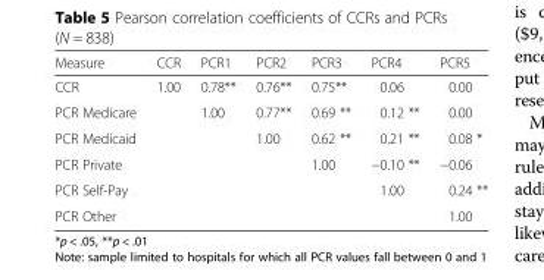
<table><thead><tr><td>Measure</td><td>CCR</td><td>PCR1</td><td>PCR2</td><td>PCR3</td><td>PCR4</td><td>PCR5</td></tr></thead><tbody><tr><td>CCR</td><td>1.00</td><td>0.78**</td><td>0.76**</td><td>0.75**</td><td>0.06</td><td>0.00</td></tr><tr><td>PCR Medicare</td><td></td><td>1.00</td><td>0.77**</td><td>0.69 **</td><td>0.12 **</td><td>0.00</td></tr><tr><td>PCR Medicaid</td><td></td><td></td><td>1.00</td><td>0.62 **</td><td>0.21 **</td><td>0.08 *</td></tr><tr><td>PCR Private</td><td></td><td></td><td></td><td>1.00</td><td>−0.10 **</td><td>−0.06</td></tr><tr><td>PCR Self-Pay</td><td></td><td></td><td></td><td></td><td>1.00</td><td>0.24 **</td></tr><tr><td>PCR Other</td><td></td><td></td><td></td><td></td><td></td><td>1.00</td></tr></tbody></table>